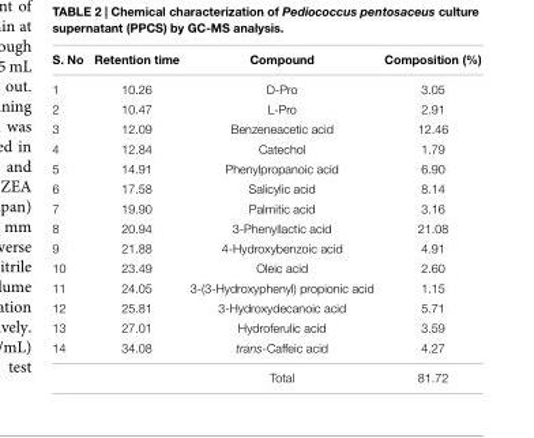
<table><thead><tr><td>S. No</td><td>Retention time</td><td>Compound</td><td>Composition (%)</td></tr></thead><tbody><tr><td>1</td><td>10.26</td><td>D-Pro</td><td>3.05</td></tr><tr><td>2</td><td>10.47</td><td>L-Pro</td><td>2.91</td></tr><tr><td>3</td><td>12.09</td><td>Benzeneacetic acid</td><td>12.46</td></tr><tr><td>4</td><td>12.84</td><td>Catechol</td><td>1.79</td></tr><tr><td>5</td><td>14.91</td><td>Phenylpropanoic acid</td><td>6.90</td></tr><tr><td>6</td><td>17.58</td><td>Salicylic acid</td><td>8.14</td></tr><tr><td>7</td><td>19.90</td><td>Palmitic acid</td><td>3.16</td></tr><tr><td>8</td><td>20.94</td><td>3-Phenyllactic acid</td><td>21.08</td></tr><tr><td>9</td><td>21.88</td><td>4-Hydroxybenzoic acid</td><td>4.91</td></tr><tr><td>10</td><td>23.49</td><td>Oleic acid</td><td>2.60</td></tr><tr><td>11</td><td>24.05</td><td>3-(3-Hydroxyphenyl) propionic acid</td><td>1.15</td></tr><tr><td>12</td><td>25.81</td><td>3-Hydroxydecanoic acid</td><td>5.71</td></tr><tr><td>13</td><td>27.01</td><td>Hydroferulic acid</td><td>3.59</td></tr><tr><td rowspan="2">14</td><td>34.08</td><td>trans-Caffeic acid</td><td>4.27</td></tr><tr><td></td><td>Total</td><td>81.72</td></tr></tbody></table>